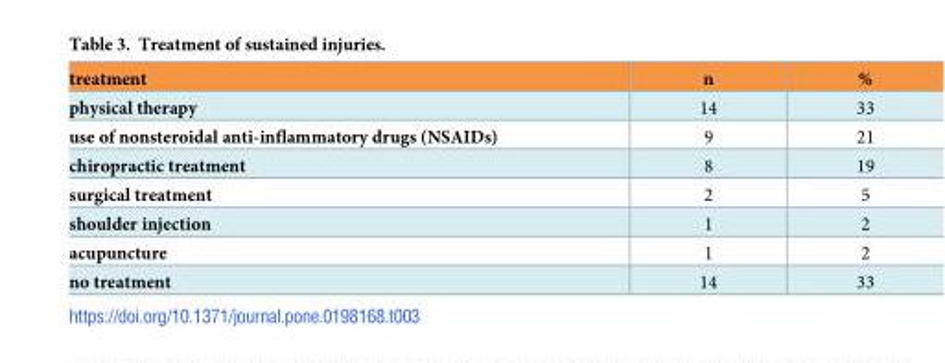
<table><thead><tr><td>treatment</td><td>n</td><td>%</td></tr></thead><tbody><tr><td>physical therapy</td><td>14</td><td>33</td></tr><tr><td>use of nonsteroidal anti-inflammatory drugs (NSAIDs)</td><td>9</td><td>21</td></tr><tr><td>chiropractic treatment</td><td>8</td><td>19</td></tr><tr><td>surgical treatment</td><td>2</td><td>5</td></tr><tr><td>shoulder injection</td><td>1</td><td>2</td></tr><tr><td>acupuncture</td><td>1</td><td>2</td></tr><tr><td>no treatment</td><td>14</td><td>33</td></tr></tbody></table>